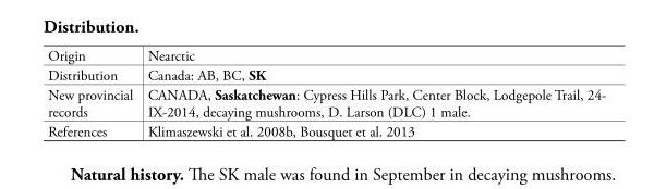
<table><tbody><tr><td>Origin</td><td>Nearctic</td></tr><tr><td>Distribution</td><td>Canada: AB, BC, SK</td></tr><tr><td>New provincial records</td><td>CANADA, Saskatchewan: Cypress Hills Park, Center Block, Lodgepole Trail, 24- IX-2014, decaying mushrooms, D. Larson (DLC) 1 male.</td></tr><tr><td>References</td><td>Klimaszewski et al. 2008b, Bousquet et al. 2013</td></tr></tbody></table>